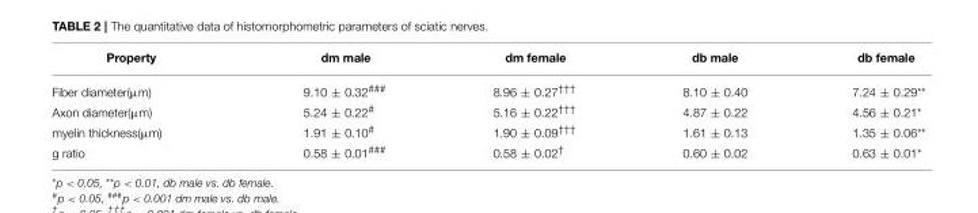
<table><thead><tr><td>Property</td><td>dm male</td><td>dm female</td><td>db male</td><td>db female</td></tr></thead><tbody><tr><td>Fiber diameter(µm)</td><td>9.10 ± 0.32<sup>###</sup></td><td>8.96 ± 0.27†††</td><td>8.10 ± 0.40</td><td>7.24 ± 0.29**</td></tr><tr><td>Axon diameter(µm)</td><td>5.24 ± 0.22#</td><td>5.16 ± 0.22†††</td><td>4.87 ± 0.22</td><td>4.56 ± 0.21*</td></tr><tr><td>myelin thickness(µm)</td><td>1.91 ± 0.10#</td><td>1.90 ± 0.09†††</td><td>1.61 ± 0.13</td><td>1.35 ± 0.06**</td></tr><tr><td>g ratio</td><td>0.58 ± 0.01<sup>###</sup></td><td>0.58 ± 0.02†</td><td>0.60 ± 0.02</td><td>0.63 ± 0.01*</td></tr></tbody></table>